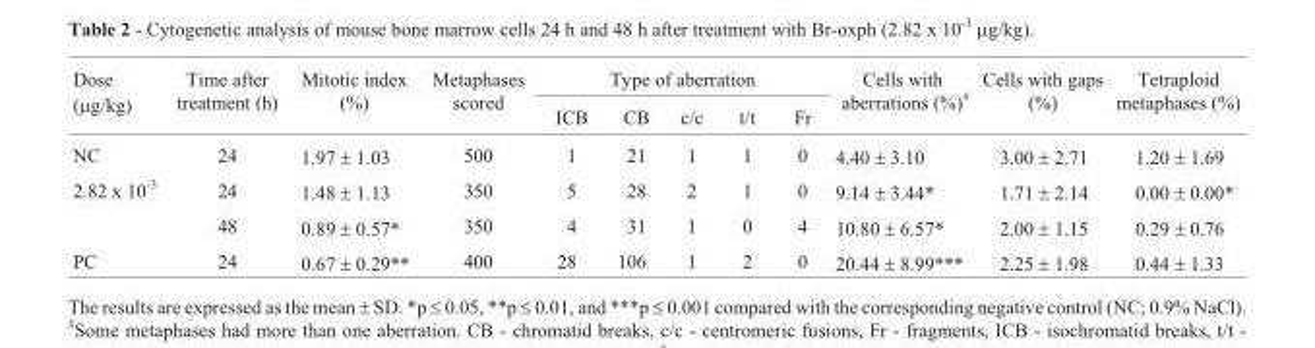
<table><thead><tr><td rowspan="2">Dose (μg/kg)</td><td rowspan="2">Time after treatment (h)</td><td rowspan="2">Mitotic index (%)</td><td rowspan="2">Metaphases scored</td><td colspan="5">Type of aberration</td><td rowspan="2">Cells with aberrations (%)<sup>#</sup></td><td rowspan="2">Cells with gaps (%)</td><td rowspan="2">Tetraploid metaphases (%)</td></tr><tr><td>ICB</td><td>CB</td><td>c/c</td><td>t/t</td><td>Fr</td></tr></thead><tbody><tr><td>NC</td><td>24</td><td>1.97 ± 1.03</td><td>500</td><td>1</td><td>21</td><td>1</td><td>1</td><td>0</td><td>4.40 ± 3.10</td><td>3.00 ± 2.71</td><td>1.20 ± 1.69</td></tr><tr><td rowspan="2">2.82 x 10<sup>-3</sup></td><td>24</td><td>1.48 ± 1.13</td><td>350</td><td>5</td><td>28</td><td>2</td><td>1</td><td>0</td><td>9.14 ± 3.44*</td><td>1.71 ± 2.14</td><td>0.00 ± 0.00*</td></tr><tr><td>48</td><td>0.89 ± 0.57*</td><td>350</td><td>4</td><td>31</td><td>1</td><td>0</td><td>4</td><td>10.80 ± 6.57*</td><td>2.00 ± 1.15</td><td>0.29 ± 0.76</td></tr><tr><td>PC</td><td>24</td><td>0.67 ± 0.29**</td><td>400</td><td>28</td><td>106</td><td>1</td><td>2</td><td>0</td><td>20.44 ± 8.99***</td><td>2.25 ± 1.98</td><td>0.44 ± 1.33</td></tr></tbody></table>